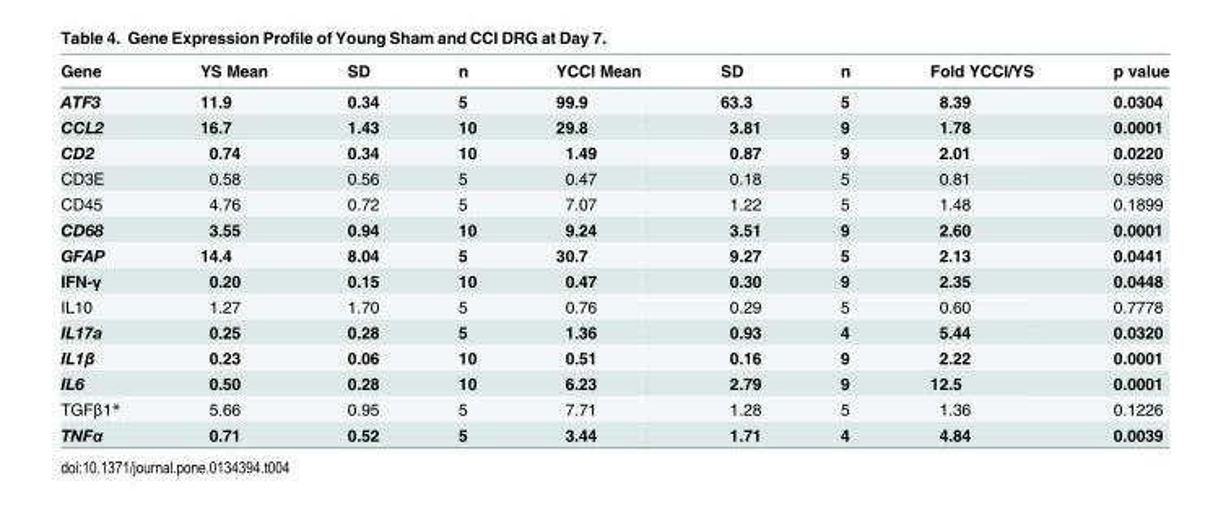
<table><thead><tr><td>Gene</td><td>YS Mean</td><td>SD</td><td>n</td><td>YCCI Mean</td><td>SD</td><td>n</td><td>Fold YCCI/YS</td><td>p value</td></tr></thead><tbody><tr><td>ATF3</td><td>11.9</td><td>0.34</td><td>5</td><td>99.9</td><td>63.3</td><td>5</td><td>8.39</td><td>0.0304</td></tr><tr><td>CCL2</td><td>16.7</td><td>1.43</td><td>10</td><td>29.8</td><td>3.81</td><td>9</td><td>1.78</td><td>0.0001</td></tr><tr><td>CD2</td><td>0.74</td><td>0.34</td><td>10</td><td>1.49</td><td>0.87</td><td>9</td><td>2.01</td><td>0.0220</td></tr><tr><td>CD3E</td><td>0.58</td><td>0.56</td><td>5</td><td>0.47</td><td>0.18</td><td>5</td><td>0.81</td><td>0.9598</td></tr><tr><td>CD45</td><td>4.76</td><td>0.72</td><td>5</td><td>7.07</td><td>1.22</td><td>5</td><td>1.48</td><td>0.1899</td></tr><tr><td>CD68</td><td>3.55</td><td>0.94</td><td>10</td><td>9.24</td><td>3.51</td><td>9</td><td>2.60</td><td>0.0001</td></tr><tr><td>GFAP</td><td>14.4</td><td>8.04</td><td>5</td><td>30.7</td><td>9.27</td><td>5</td><td>2.13</td><td>0.0441</td></tr><tr><td>IFN-γ</td><td>0.20</td><td>0.15</td><td>10</td><td>0.47</td><td>0.30</td><td>9</td><td>2.35</td><td>0.0448</td></tr><tr><td>IL10</td><td>1.27</td><td>1.70</td><td>5</td><td>0.76</td><td>0.29</td><td>5</td><td>0.60</td><td>0.7778</td></tr><tr><td>IL17a</td><td>0.25</td><td>0.28</td><td>5</td><td>1.36</td><td>0.93</td><td>4</td><td>5.44</td><td>0.0320</td></tr><tr><td>IL1β</td><td>0.23</td><td>0.06</td><td>10</td><td>0.51</td><td>0.16</td><td>9</td><td>2.22</td><td>0.0001</td></tr><tr><td>IL6</td><td>0.50</td><td>0.28</td><td>10</td><td>6.23</td><td>2.79</td><td>9</td><td>12.5</td><td>0.0001</td></tr><tr><td>TGFβ1*</td><td>5.66</td><td>0.95</td><td>5</td><td>7.71</td><td>1.28</td><td>5</td><td>1.36</td><td>0.1226</td></tr><tr><td>TNFα</td><td>0.71</td><td>0.52</td><td>5</td><td>3.44</td><td>1.71</td><td>4</td><td>4.84</td><td>0.0039</td></tr></tbody></table>